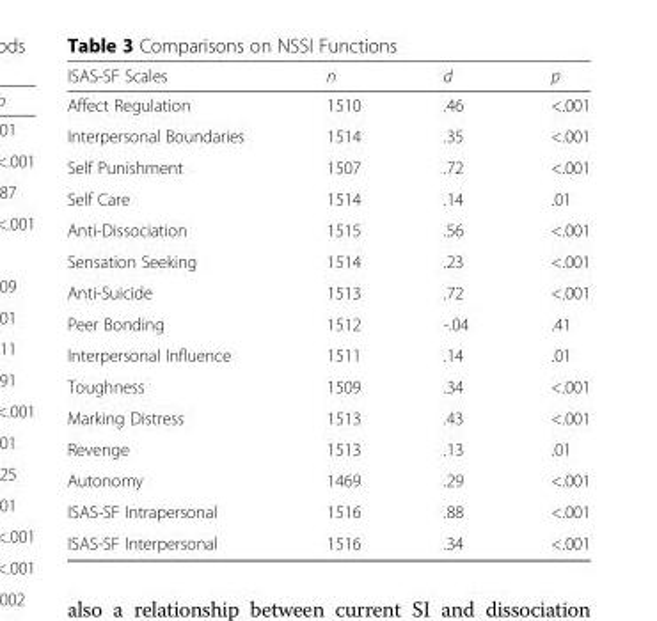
<table><thead><tr><td>ISAS-SF Scales</td><td>n</td><td>d</td><td>p</td></tr></thead><tbody><tr><td>Affect Regulation</td><td>1510</td><td>.46</td><td>&lt;.001</td></tr><tr><td>Interpersonal Boundaries</td><td>1514</td><td>.35</td><td>&lt;.001</td></tr><tr><td>Self Punishment</td><td>1507</td><td>.72</td><td>&lt;.001</td></tr><tr><td>Self Care</td><td>1514</td><td>.14</td><td>.01</td></tr><tr><td>Anti-Dissociation</td><td>1515</td><td>.56</td><td>&lt;.001</td></tr><tr><td>Sensation Seeking</td><td>1514</td><td>.23</td><td>&lt;.001</td></tr><tr><td>Anti-Suicide</td><td>1513</td><td>.72</td><td>&lt;.001</td></tr><tr><td>Peer Bonding</td><td>1512</td><td>-.04</td><td>.41</td></tr><tr><td>Interpersonal Influence</td><td>1511</td><td>.14</td><td>.01</td></tr><tr><td>Toughness</td><td>1509</td><td>.34</td><td>&lt;.001</td></tr><tr><td>Marking Distress</td><td>1513</td><td>.43</td><td>&lt;.001</td></tr><tr><td>Revenge</td><td>1513</td><td>.13</td><td>.01</td></tr><tr><td>Autonomy</td><td>1469</td><td>.29</td><td>&lt;.001</td></tr><tr><td>ISAS-SF Intrapersonal</td><td>1516</td><td>.88</td><td>&lt;.001</td></tr><tr><td>ISAS-SF Interpersonal</td><td>1516</td><td>.34</td><td>&lt;.001</td></tr></tbody></table>